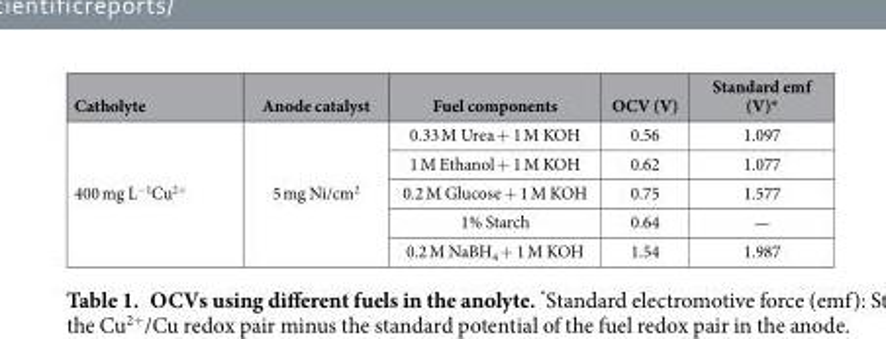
<table><thead><tr><td>Catholyte</td><td>Anode catalyst</td><td>Fuel components</td><td>OCV (V)</td><td>Standard emf (V)*</td></tr></thead><tbody><tr><td rowspan="5">400 mg L<sup>−1</sup>Cu<sup>2+</sup></td><td rowspan="5">5 mg Ni/cm<sup>2</sup></td><td>0.33 M Urea + 1 M KOH</td><td>0.56</td><td>1.097</td></tr><tr><td>1 M Ethanol + 1 M KOH</td><td>0.62</td><td>1.077</td></tr><tr><td>0.2 M Glucose + 1 M KOH</td><td>0.75</td><td>1.577</td></tr><tr><td>1% Starch</td><td>0.64</td><td>—</td></tr><tr><td>0.2 M NaBH<sub>4</sub> + 1 M KOH</td><td>1.54</td><td>1.987</td></tr></tbody></table>